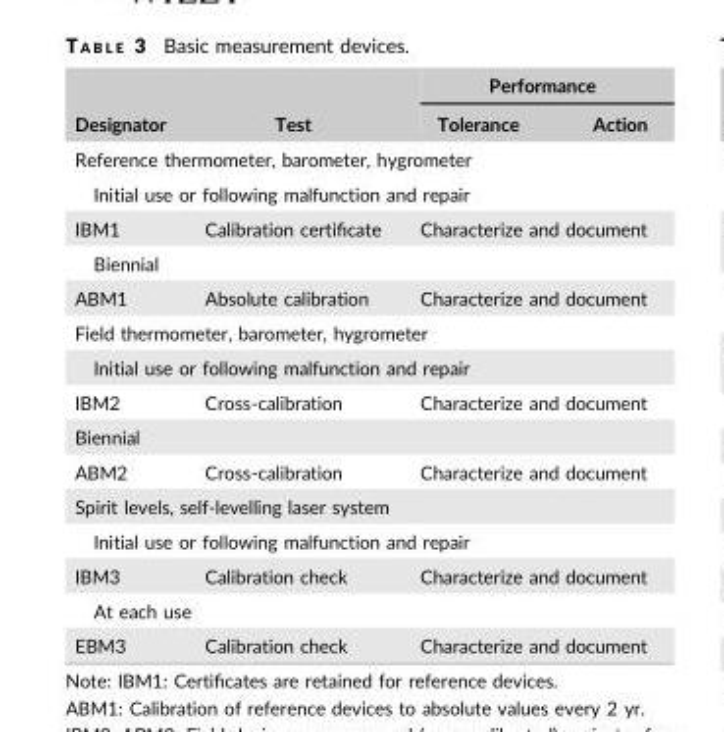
<table><thead><tr><td rowspan="2">Designator</td><td rowspan="2">Test</td><td colspan="2">Performance</td></tr><tr><td>Tolerance</td><td>Action</td></tr></thead><tbody><tr><td colspan="4">Reference thermometer, barometer, hygrometer</td></tr><tr><td colspan="4">Initial use or following malfunction and repair</td></tr><tr><td>IBM1</td><td>Calibration certificate</td><td colspan="2">Characterize and document</td></tr><tr><td colspan="4">Biennial</td></tr><tr><td>ABM1</td><td>Absolute calibration</td><td colspan="2">Characterize and document</td></tr><tr><td colspan="4">Field thermometer, barometer, hygrometer</td></tr><tr><td colspan="4">Initial use or following malfunction and repair</td></tr><tr><td>IBM2</td><td>Cross-calibration</td><td colspan="2">Characterize and document</td></tr><tr><td colspan="4">Biennial</td></tr><tr><td>ABM2</td><td>Cross-calibration</td><td colspan="2">Characterize and document</td></tr><tr><td colspan="4">Spirit levels, self-levelling laser system</td></tr><tr><td colspan="4">Initial use or following malfunction and repair</td></tr><tr><td>IBM3</td><td>Calibration check</td><td colspan="2">Characterize and document</td></tr><tr><td colspan="4">At each use</td></tr><tr><td>EBM3</td><td>Calibration check</td><td colspan="2">Characterize and document</td></tr></tbody></table>